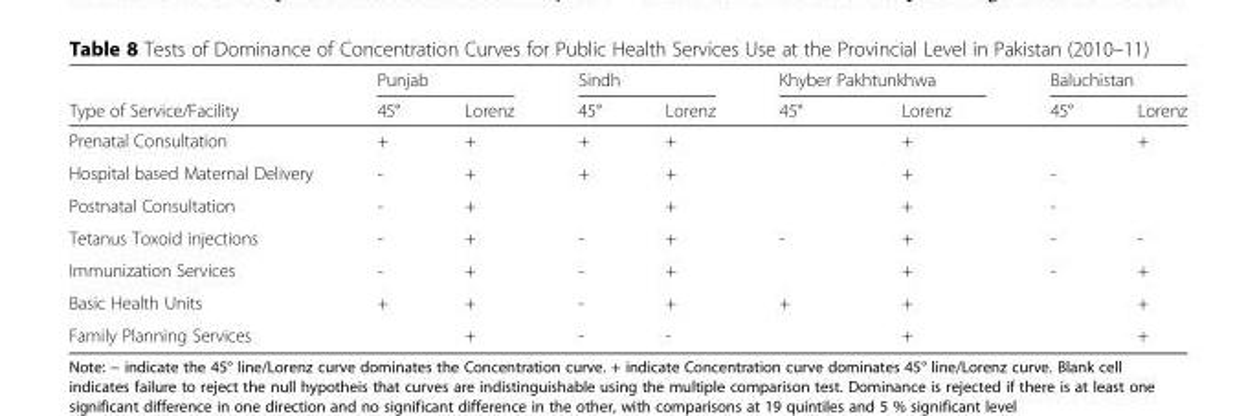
<table><thead><tr><td rowspan="2">Type of Service/Facility</td><td colspan="2">Punjab</td><td colspan="2">Sindh</td><td colspan="2">Khyber Pakhtunkhwa</td><td colspan="2">Baluchistan</td></tr><tr><td>45°</td><td>Lorenz</td><td>45°</td><td>Lorenz</td><td>45°</td><td>Lorenz</td><td>45°</td><td>Lorenz</td></tr></thead><tbody><tr><td>Prenatal Consultation</td><td>+</td><td>+</td><td>+</td><td>+</td><td></td><td>+</td><td></td><td>+</td></tr><tr><td>Hospital based Maternal Delivery</td><td>-</td><td>+</td><td>+</td><td>+</td><td></td><td>+</td><td>-</td><td></td></tr><tr><td>Postnatal Consultation</td><td>-</td><td>+</td><td></td><td>+</td><td></td><td>+</td><td>-</td><td></td></tr><tr><td>Tetanus Toxoid injections</td><td>-</td><td>+</td><td>-</td><td>+</td><td>-</td><td>+</td><td>-</td><td>-</td></tr><tr><td>Immunization Services</td><td>-</td><td>+</td><td>-</td><td>+</td><td></td><td>+</td><td>-</td><td>+</td></tr><tr><td>Basic Health Units</td><td>+</td><td>+</td><td>-</td><td>+</td><td>+</td><td>+</td><td></td><td>+</td></tr><tr><td>Family Planning Services</td><td></td><td>+</td><td>-</td><td>-</td><td></td><td>+</td><td></td><td>+</td></tr></tbody></table>